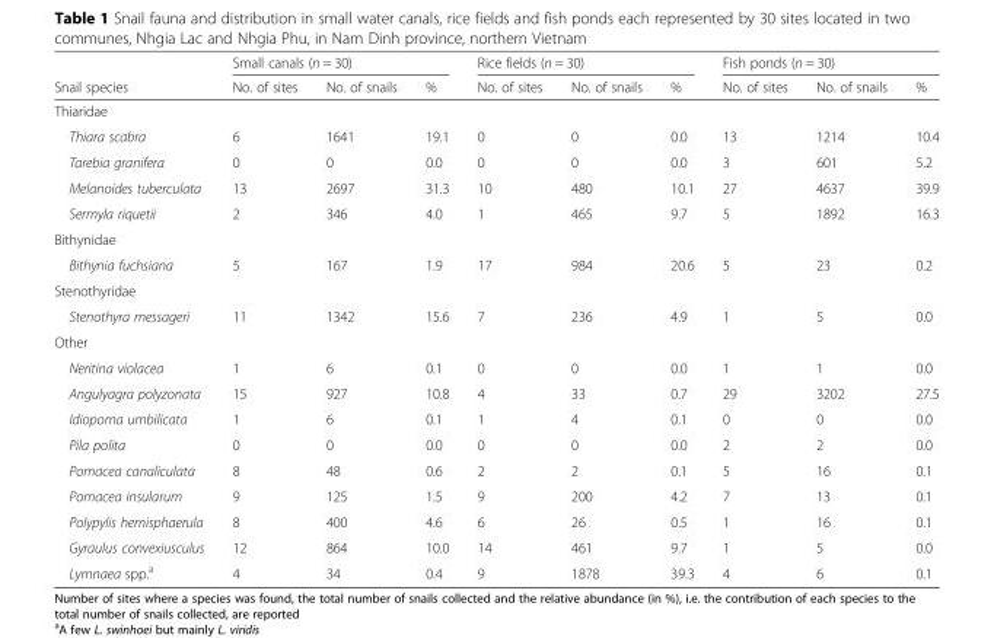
<table><thead><tr><td rowspan="2">Snail species</td><td colspan="3">Small canals (n = 30)</td><td colspan="3">Rice fields (n = 30)</td><td colspan="3">Fish ponds (n = 30)</td></tr><tr><td>No. of sites</td><td>No. of snails</td><td>%</td><td>No. of sites</td><td>No. of snails</td><td>%</td><td>No. of sites</td><td>No. of snails</td><td>%</td></tr></thead><tbody><tr><td colspan="10">Thiaridae</td></tr><tr><td>Thiara scabra</td><td>6</td><td>1641</td><td>19.1</td><td>0</td><td>0</td><td>0.0</td><td>13</td><td>1214</td><td>10.4</td></tr><tr><td>Tarebia granifera</td><td>0</td><td>0</td><td>0.0</td><td>0</td><td>0</td><td>0.0</td><td>3</td><td>601</td><td>5.2</td></tr><tr><td>Melanoides tuberculata</td><td>13</td><td>2697</td><td>31.3</td><td>10</td><td>480</td><td>10.1</td><td>27</td><td>4637</td><td>39.9</td></tr><tr><td>Sermyla riquetii</td><td>2</td><td>346</td><td>4.0</td><td>1</td><td>465</td><td>9.7</td><td>5</td><td>1892</td><td>16.3</td></tr><tr><td colspan="10">Bithynidae</td></tr><tr><td>Bithynia fuchsiana</td><td>5</td><td>167</td><td>1.9</td><td>17</td><td>984</td><td>20.6</td><td>5</td><td>23</td><td>0.2</td></tr><tr><td colspan="10">Stenothyridae</td></tr><tr><td>Stenothyra messageri</td><td>11</td><td>1342</td><td>15.6</td><td>7</td><td>236</td><td>4.9</td><td>1</td><td>5</td><td>0.0</td></tr><tr><td colspan="10">Other</td></tr><tr><td>Neritina violacea</td><td>1</td><td>6</td><td>0.1</td><td>0</td><td>0</td><td>0.0</td><td>1</td><td>1</td><td>0.0</td></tr><tr><td>Angulyagra polyzonata</td><td>15</td><td>927</td><td>10.8</td><td>4</td><td>33</td><td>0.7</td><td>29</td><td>3202</td><td>27.5</td></tr><tr><td>Idiopoma umbilicata</td><td>1</td><td>6</td><td>0.1</td><td>1</td><td>4</td><td>0.1</td><td>0</td><td>0</td><td>0.0</td></tr><tr><td>Pila polita</td><td>0</td><td>0</td><td>0.0</td><td>0</td><td>0</td><td>0.0</td><td>2</td><td>2</td><td>0.0</td></tr><tr><td>Pomacea canaliculata</td><td>8</td><td>48</td><td>0.6</td><td>2</td><td>2</td><td>0.1</td><td>5</td><td>16</td><td>0.1</td></tr><tr><td>Pomacea insularum</td><td>9</td><td>125</td><td>1.5</td><td>9</td><td>200</td><td>4.2</td><td>7</td><td>13</td><td>0.1</td></tr><tr><td>Polypylis hemisphaerula</td><td>8</td><td>400</td><td>4.6</td><td>6</td><td>26</td><td>0.5</td><td>1</td><td>16</td><td>0.1</td></tr><tr><td>Gyraulus convexiusculus</td><td>12</td><td>864</td><td>10.0</td><td>14</td><td>461</td><td>9.7</td><td>1</td><td>5</td><td>0.0</td></tr><tr><td>Lymnaea spp.<sup>a</sup></td><td>4</td><td>34</td><td>0.4</td><td>9</td><td>1878</td><td>39.3</td><td>4</td><td>6</td><td>0.1</td></tr></tbody></table>